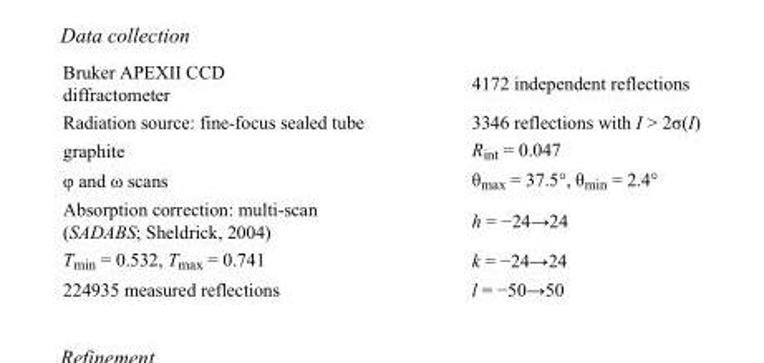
<table><tbody><tr><td>Bruker APEXII CCD diffractometer</td><td>4172 independent reflections</td></tr><tr><td>Radiation source: fine-focus sealed tube</td><td>3346 reflections with I &gt; 2σ(I)</td></tr><tr><td>graphite</td><td>R<sub>int</sub> = 0.047</td></tr><tr><td>φ and ω scans</td><td>θ<sub>max</sub> = 37.5°, θ<sub>min</sub> = 2.4°</td></tr><tr><td>Absorption correction: multi-scan (SADABS; Sheldrick, 2004)</td><td>h = −24→24</td></tr><tr><td>T<sub>min</sub> = 0.532, T<sub>max</sub> = 0.741</td><td>k = −24→24</td></tr><tr><td>224935 measured reflections</td><td>l = −50→50</td></tr></tbody></table>